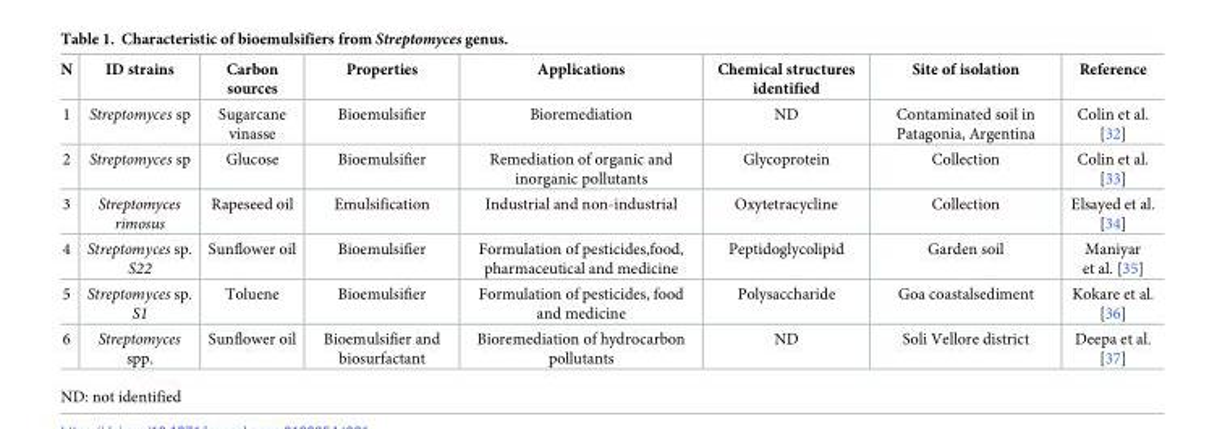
<table><thead><tr><td>N</td><td>ID strains</td><td>Carbon sources</td><td>Properties</td><td>Applications</td><td>Chemical structures identified</td><td>Site of isolation</td><td>Reference</td></tr></thead><tbody><tr><td>1</td><td>Streptomyces sp</td><td>Sugarcane vinasse</td><td>Bioemulsifier</td><td>Bioremediation</td><td>ND</td><td>Contaminated soil in Patagonia, Argentina</td><td>Colin et al. [32]</td></tr><tr><td>2</td><td>Streptomyces sp</td><td>Glucose</td><td>Bioemulsifier</td><td>Remediation of organic and inorganic pollutants</td><td>Glycoprotein</td><td>Collection</td><td>Colin et al. [33]</td></tr><tr><td>3</td><td>Streptomyces rimosus</td><td>Rapeseed oil</td><td>Emulsification</td><td>Industrial and non-industrial</td><td>Oxytetracycline</td><td>Collection</td><td>Elsayed et al. [34]</td></tr><tr><td>4</td><td>Streptomyces sp. S22</td><td>Sunflower oil</td><td>Bioemulsifier</td><td>Formulation of pesticides,food, pharmaceutical and medicine</td><td>Peptidoglycolipid</td><td>Garden soil</td><td>Maniyar et al. [35]</td></tr><tr><td>5</td><td>Streptomyces sp. S1</td><td>Toluene</td><td>Bioemulsifier</td><td>Formulation of pesticides, food and medicine</td><td>Polysaccharide</td><td>Goa coastalsediment</td><td>Kokare et al. [36]</td></tr><tr><td>6</td><td>Streptomyces spp.</td><td>Sunflower oil</td><td>Bioemulsifier and biosurfactant</td><td>Bioremediation of hydrocarbon pollutants</td><td>ND</td><td>Soli Vellore district</td><td>Deepa et al. [37]</td></tr></tbody></table>